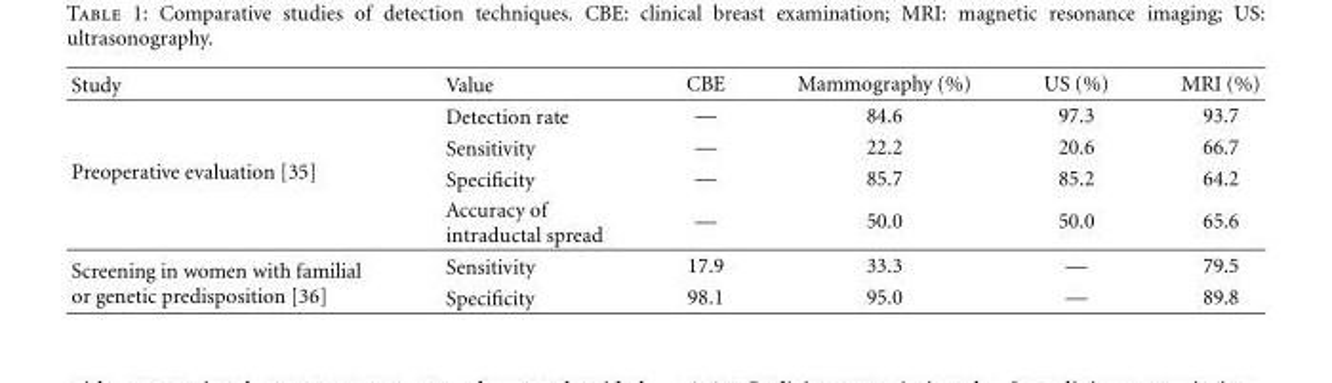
<table><thead><tr><td>Study</td><td>Value</td><td>CBE</td><td>Mammography (%)</td><td>US (%)</td><td>MRI (%)</td></tr></thead><tbody><tr><td rowspan="4">Preoperative evaluation [35]</td><td>Detection rate</td><td>—</td><td>84.6</td><td>97.3</td><td>93.7</td></tr><tr><td>Sensitivity</td><td>—</td><td>22.2</td><td>20.6</td><td>66.7</td></tr><tr><td>Specificity</td><td>—</td><td>85.7</td><td>85.2</td><td>64.2</td></tr><tr><td>Accuracy of intraductal spread</td><td>—</td><td>50.0</td><td>50.0</td><td>65.6</td></tr><tr><td rowspan="2">Screening in women with familial or genetic predisposition [36]</td><td>Sensitivity</td><td>17.9</td><td>33.3</td><td>—</td><td>79.5</td></tr><tr><td>Specificity</td><td>98.1</td><td>95.0</td><td>—</td><td>89.8</td></tr></tbody></table>